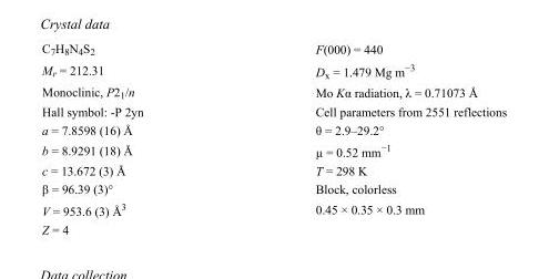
<table><tbody><tr><td>C<sub>7</sub>H<sub>8</sub>N<sub>4</sub>S<sub>2</sub></td><td>F(000) = 440</td></tr><tr><td>M<sub>r</sub> = 212.31</td><td>D<sub>x</sub> = 1.479 Mg m<sup>−3</sup></td></tr><tr><td>Monoclinic, P2<sub>1</sub>/n</td><td>Mo Kα radiation, λ = 0.71073 Å</td></tr><tr><td>Hall symbol: -P 2yn</td><td>Cell parameters from 2551 reflections</td></tr><tr><td>a = 7.8598 (16) Å</td><td>θ = 2.9–29.2°</td></tr><tr><td>b = 8.9291 (18) Å</td><td>µ = 0.52 mm<sup>−1</sup></td></tr><tr><td>c = 13.672 (3) Å</td><td>T = 298 K</td></tr><tr><td>β = 96.39 (3)°</td><td>Block, colorless</td></tr><tr><td>V = 953.6 (3) Å<sup>3</sup></td><td>0.45 × 0.35 × 0.3 mm</td></tr><tr><td>Z = 4</td><td></td></tr></tbody></table>